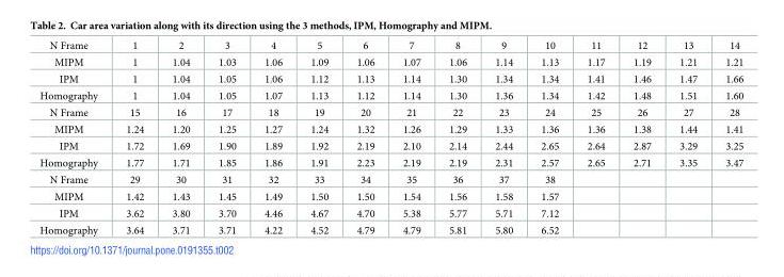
<table><tbody><tr><td>N Frame</td><td>1</td><td>2</td><td>3</td><td>4</td><td>5</td><td>6</td><td>7</td><td>8</td><td>9</td><td>10</td><td>11</td><td>12</td><td>13</td><td>14</td></tr><tr><td>MIPM</td><td>1</td><td>1.04</td><td>1.03</td><td>1.06</td><td>1.09</td><td>1.06</td><td>1.07</td><td>1.06</td><td>1.14</td><td>1.13</td><td>1.17</td><td>1.19</td><td>1.21</td><td>1.21</td></tr><tr><td>IPM</td><td>1</td><td>1.04</td><td>1.05</td><td>1.06</td><td>1.12</td><td>1.13</td><td>1.14</td><td>1.30</td><td>1.34</td><td>1.34</td><td>1.41</td><td>1.46</td><td>1.47</td><td>1.66</td></tr><tr><td>Homography</td><td>1</td><td>1.04</td><td>1.05</td><td>1.07</td><td>1.13</td><td>1.12</td><td>1.14</td><td>1.30</td><td>1.36</td><td>1.34</td><td>1.42</td><td>1.48</td><td>1.51</td><td>1.60</td></tr><tr><td>N Frame</td><td>15</td><td>16</td><td>17</td><td>18</td><td>19</td><td>20</td><td>21</td><td>22</td><td>23</td><td>24</td><td>25</td><td>26</td><td>27</td><td>28</td></tr><tr><td>MIPM</td><td>1.24</td><td>1.20</td><td>1.25</td><td>1.27</td><td>1.24</td><td>1.32</td><td>1.26</td><td>1.29</td><td>1.33</td><td>1.36</td><td>1.36</td><td>1.38</td><td>1.44</td><td>1.41</td></tr><tr><td>IPM</td><td>1.72</td><td>1.69</td><td>1.90</td><td>1.89</td><td>1.92</td><td>2.19</td><td>2.10</td><td>2.14</td><td>2.44</td><td>2.65</td><td>2.64</td><td>2.87</td><td>3.29</td><td>3.25</td></tr><tr><td>Homography</td><td>1.77</td><td>1.71</td><td>1.85</td><td>1.86</td><td>1.91</td><td>2.23</td><td>2.19</td><td>2.19</td><td>2.31</td><td>2.57</td><td>2.65</td><td>2.71</td><td>3.35</td><td>3.47</td></tr><tr><td>N Frame</td><td>29</td><td>30</td><td>31</td><td>32</td><td>33</td><td>34</td><td>35</td><td>36</td><td>37</td><td>38</td><td></td><td></td><td></td><td></td></tr><tr><td>MIPM</td><td>1.42</td><td>1.43</td><td>1.45</td><td>1.49</td><td>1.50</td><td>1.50</td><td>1.54</td><td>1.56</td><td>1.58</td><td>1.57</td><td></td><td></td><td></td><td></td></tr><tr><td>IPM</td><td>3.62</td><td>3.80</td><td>3.70</td><td>4.46</td><td>4.67</td><td>4.70</td><td>5.38</td><td>5.77</td><td>5.71</td><td>7.12</td><td></td><td></td><td></td><td></td></tr><tr><td>Homography</td><td>3.64</td><td>3.71</td><td>3.71</td><td>4.22</td><td>4.52</td><td>4.79</td><td>4.79</td><td>5.81</td><td>5.80</td><td>6.52</td><td></td><td></td><td></td><td></td></tr></tbody></table>